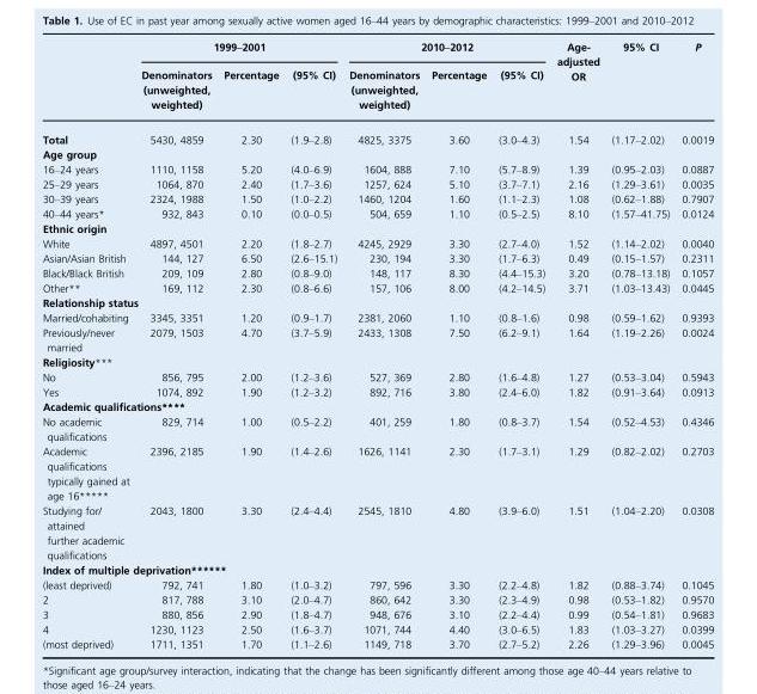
<table><thead><tr><td rowspan="2"></td><td colspan="3">1999–2001</td><td colspan="3">2010–2012</td><td rowspan="2">Age- adjusted OR</td><td rowspan="2">95% CI</td><td rowspan="2">P</td></tr><tr><td>Denominators (unweighted, weighted)</td><td>Percentage</td><td>(95% CI)</td><td>Denominators (unweighted, weighted)</td><td>Percentage</td><td>(95% CI)</td></tr></thead><tbody><tr><td>Total</td><td>5430, 4859</td><td>2.30</td><td>(1.9–2.8)</td><td>4825, 3375</td><td>3.60</td><td>(3.0–4.3)</td><td>1.54</td><td>(1.17–2.02)</td><td>0.0019</td></tr><tr><td colspan="10">Age group</td></tr><tr><td>16–24 years</td><td>1110, 1158</td><td>5.20</td><td>(4.0–6.9)</td><td>1604, 888</td><td>7.10</td><td>(5.7–8.9)</td><td>1.39</td><td>(0.95–2.03)</td><td>0.0887</td></tr><tr><td>25–29 years</td><td>1064, 870</td><td>2.40</td><td>(1.7–3.6)</td><td>1257, 624</td><td>5.10</td><td>(3.7–7.1)</td><td>2.16</td><td>(1.29–3.61)</td><td>0.0035</td></tr><tr><td>30–39 years</td><td>2324, 1988</td><td>1.50</td><td>(1.0–2.2)</td><td>1460, 1204</td><td>1.60</td><td>(1.1–2.3)</td><td>1.08</td><td>(0.62–1.88)</td><td>0.7907</td></tr><tr><td>40–44 years*</td><td>932, 843</td><td>0.10</td><td>(0.0–0.5)</td><td>504, 659</td><td>1.10</td><td>(0.5–2.5)</td><td>8.10</td><td>(1.57–41.75)</td><td>0.0124</td></tr><tr><td colspan="10">Ethnic origin</td></tr><tr><td>White</td><td>4897, 4501</td><td>2.20</td><td>(1.8–2.7)</td><td>4245, 2929</td><td>3.30</td><td>(2.7–4.0)</td><td>1.52</td><td>(1.14–2.02)</td><td>0.0040</td></tr><tr><td>Asian/Asian British</td><td>144, 127</td><td>6.50</td><td>(2.6–15.1)</td><td>230, 194</td><td>3.30</td><td>(1.7–6.3)</td><td>0.49</td><td>(0.15–1.57)</td><td>0.2311</td></tr><tr><td>Black/Black British</td><td>209, 109</td><td>2.80</td><td>(0.8–9.0)</td><td>148, 117</td><td>8.30</td><td>(4.4–15.3)</td><td>3.20</td><td>(0.78–13.18)</td><td>0.1057</td></tr><tr><td>Other**</td><td>169, 112</td><td>2.30</td><td>(0.8–6.6)</td><td>157, 106</td><td>8.00</td><td>(4.2–14.5)</td><td>3.71</td><td>(1.03–13.43)</td><td>0.0445</td></tr><tr><td colspan="10">Relationship status</td></tr><tr><td>Married/cohabiting</td><td>3345, 3351</td><td>1.20</td><td>(0.9–1.7)</td><td>2381, 2060</td><td>1.10</td><td>(0.8–1.6)</td><td>0.98</td><td>(0.59–1.62)</td><td>0.9393</td></tr><tr><td>Previously/never married</td><td>2079, 1503</td><td>4.70</td><td>(3.7–5.9)</td><td>2433, 1308</td><td>7.50</td><td>(6.2–9.1)</td><td>1.64</td><td>(1.19–2.26)</td><td>0.0024</td></tr><tr><td colspan="10">Religiosity***</td></tr><tr><td>No</td><td>856, 795</td><td>2.00</td><td>(1.2–3.6)</td><td>527, 369</td><td>2.80</td><td>(1.6–4.8)</td><td>1.27</td><td>(0.53–3.04)</td><td>0.5943</td></tr><tr><td>Yes</td><td>1074, 892</td><td>1.90</td><td>(1.2–3.2)</td><td>892, 716</td><td>3.80</td><td>(2.4–6.0)</td><td>1.82</td><td>(0.91–3.64)</td><td>0.0913</td></tr><tr><td colspan="10">Academic qualifications****</td></tr><tr><td>No academic qualifications</td><td>829, 714</td><td>1.00</td><td>(0.5–2.2)</td><td>401, 259</td><td>1.80</td><td>(0.8–3.7)</td><td>1.54</td><td>(0.52–4.53)</td><td>0.4346</td></tr><tr><td>Academic qualifications typically gained at age 16*****</td><td>2396, 2185</td><td>1.90</td><td>(1.4–2.6)</td><td>1626, 1141</td><td>2.30</td><td>(1.7–3.1)</td><td>1.29</td><td>(0.82–2.02)</td><td>0.2703</td></tr><tr><td>Studying for/ attained further academic qualifications</td><td>2043, 1800</td><td>3.30</td><td>(2.4–4.4)</td><td>2545, 1810</td><td>4.80</td><td>(3.9–6.0)</td><td>1.51</td><td>(1.04–2.20)</td><td>0.0308</td></tr><tr><td colspan="10">Index of multiple deprivation******</td></tr><tr><td>(least deprived)</td><td>792, 741</td><td>1.80</td><td>(1.0–3.2)</td><td>797, 596</td><td>3.30</td><td>(2.2–4.8)</td><td>1.82</td><td>(0.88–3.74)</td><td>0.1045</td></tr><tr><td>2</td><td>817, 788</td><td>3.10</td><td>(2.0–4.7)</td><td>860, 642</td><td>3.30</td><td>(2.3–4.9)</td><td>0.98</td><td>(0.53–1.82)</td><td>0.9570</td></tr><tr><td>3</td><td>880, 856</td><td>2.90</td><td>(1.8–4.7)</td><td>948, 676</td><td>3.10</td><td>(2.2–4.4)</td><td>0.99</td><td>(0.54–1.81)</td><td>0.9683</td></tr><tr><td>4</td><td>1230, 1123</td><td>2.50</td><td>(1.6–3.7)</td><td>1071, 744</td><td>4.40</td><td>(3.0–6.5)</td><td>1.83</td><td>(1.03–3.27)</td><td>0.0399</td></tr><tr><td>(most deprived)</td><td>1711, 1351</td><td>1.70</td><td>(1.1–2.6)</td><td>1149, 718</td><td>3.70</td><td>(2.7–5.2)</td><td>2.26</td><td>(1.29–3.96)</td><td>0.0045</td></tr></tbody></table>